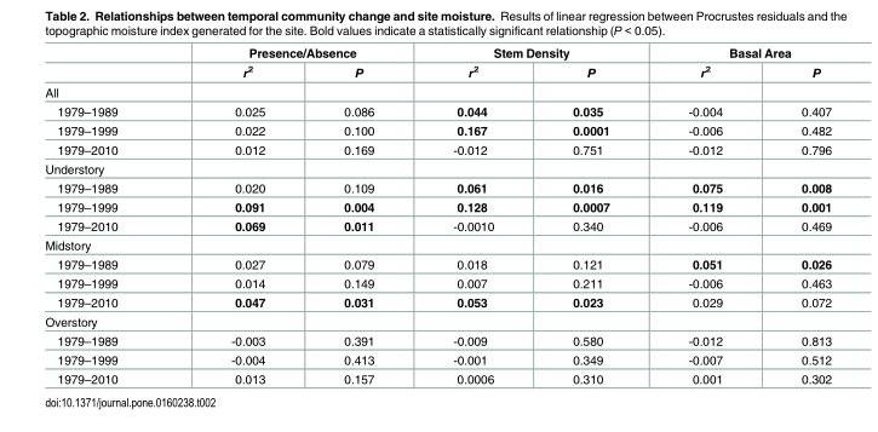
<table><thead><tr><td rowspan="2"></td><td colspan="2">Presence/Absence</td><td colspan="2">Stem Density</td><td colspan="2">Basal Area</td></tr><tr><td>r<sup>2</sup></td><td>P</td><td>r<sup>2</sup></td><td>P</td><td>r<sup>2</sup></td><td>P</td></tr></thead><tbody><tr><td colspan="7">All</td></tr><tr><td>1979–1989</td><td>0.025</td><td>0.086</td><td>0.044</td><td>0.035</td><td>-0.004</td><td>0.407</td></tr><tr><td>1979–1999</td><td>0.022</td><td>0.100</td><td>0.167</td><td>0.0001</td><td>-0.006</td><td>0.482</td></tr><tr><td>1979–2010</td><td>0.012</td><td>0.169</td><td>-0.012</td><td>0.751</td><td>-0.012</td><td>0.796</td></tr><tr><td colspan="7">Understory</td></tr><tr><td>1979–1989</td><td>0.020</td><td>0.109</td><td>0.061</td><td>0.016</td><td>0.075</td><td>0.008</td></tr><tr><td>1979–1999</td><td>0.091</td><td>0.004</td><td>0.128</td><td>0.0007</td><td>0.119</td><td>0.001</td></tr><tr><td>1979–2010</td><td>0.069</td><td>0.011</td><td>-0.0010</td><td>0.340</td><td>-0.006</td><td>0.469</td></tr><tr><td colspan="7">Midstory</td></tr><tr><td>1979–1989</td><td>0.027</td><td>0.079</td><td>0.018</td><td>0.121</td><td>0.051</td><td>0.026</td></tr><tr><td>1979–1999</td><td>0.014</td><td>0.149</td><td>0.007</td><td>0.211</td><td>-0.006</td><td>0.463</td></tr><tr><td>1979–2010</td><td>0.047</td><td>0.031</td><td>0.053</td><td>0.023</td><td>0.029</td><td>0.072</td></tr><tr><td colspan="7">Overstory</td></tr><tr><td>1979–1989</td><td>-0.003</td><td>0.391</td><td>-0.009</td><td>0.580</td><td>-0.012</td><td>0.813</td></tr><tr><td>1979–1999</td><td>-0.004</td><td>0.413</td><td>-0.001</td><td>0.349</td><td>-0.007</td><td>0.512</td></tr><tr><td>1979–2010</td><td>0.013</td><td>0.157</td><td>0.0006</td><td>0.310</td><td>0.001</td><td>0.302</td></tr></tbody></table>